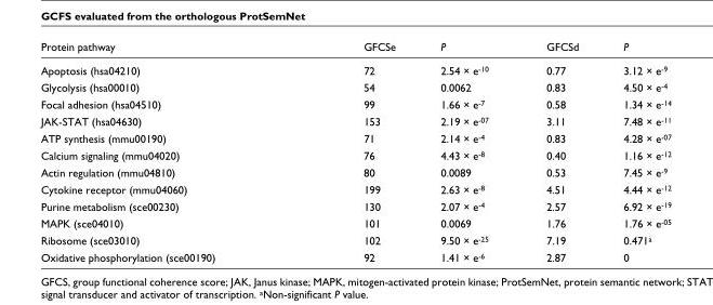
<table><thead><tr><td>Protein pathway</td><td>GFCSe</td><td>P</td><td>GFCSd</td><td>P</td></tr></thead><tbody><tr><td>Apoptosis (hsa04210)</td><td>72</td><td>2.54 × e<sup>-10</sup></td><td>0.77</td><td>3.12 × e<sup>-9</sup></td></tr><tr><td>Glycolysis (hsa00010)</td><td>54</td><td>0.0062</td><td>0.83</td><td>4.50 × e<sup>-4</sup></td></tr><tr><td>Focal adhesion (hsa04510)</td><td>99</td><td>1.66 × e<sup>-7</sup></td><td>0.58</td><td>1.34 × e<sup>-14</sup></td></tr><tr><td>JAK-STAT (hsa04630)</td><td>153</td><td>2.19 × e<sup>-07</sup></td><td>3.11</td><td>7.48 × e<sup>-11</sup></td></tr><tr><td>ATP synthesis (mmu00190)</td><td>71</td><td>2.14 × e<sup>-4</sup></td><td>0.83</td><td>4.28 × e<sup>-07</sup></td></tr><tr><td>Calcium signaling (mmu04020)</td><td>76</td><td>4.43 × e<sup>-8</sup></td><td>0.40</td><td>1.16 × e<sup>-12</sup></td></tr><tr><td>Actin regulation (mmu04810)</td><td>80</td><td>0.0089</td><td>0.53</td><td>7.45 × e<sup>-9</sup></td></tr><tr><td>Cytokine receptor (mmu04060)</td><td>199</td><td>2.63 × e<sup>-8</sup></td><td>4.51</td><td>4.44 × e<sup>-12</sup></td></tr><tr><td>Purine metabolism (sce00230)</td><td>130</td><td>2.07 × e<sup>-4</sup></td><td>2.57</td><td>6.92 × e<sup>-19</sup></td></tr><tr><td>MAPK (sce04010)</td><td>101</td><td>0.0069</td><td>1.76</td><td>1.76 × e<sup>-05</sup></td></tr><tr><td>Ribosome (sce03010)</td><td>102</td><td>9.50 × e<sup>-25</sup></td><td>7.19</td><td>0.471<sup>a</sup></td></tr><tr><td>Oxidative phosphorylation (sce00190)</td><td>92</td><td>1.41 × e<sup>-6</sup></td><td>2.87</td><td>0</td></tr></tbody></table>